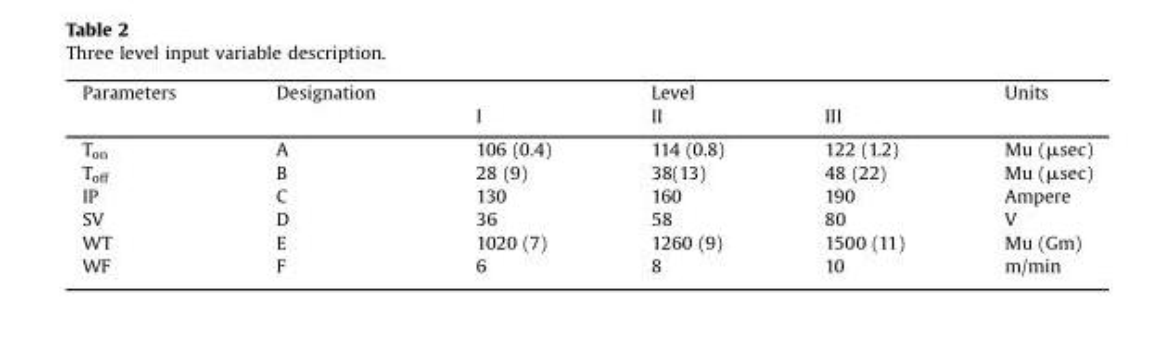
<table><thead><tr><td rowspan="2">Parameters</td><td rowspan="2">Designation</td><td rowspan="2">I</td><td rowspan="2">Level II</td><td rowspan="2">III</td><td rowspan="2">Units</td></tr><tr></tr></thead><tbody><tr><td>T<sub>on</sub></td><td>A</td><td>106 (0.4)</td><td>114 (0.8)</td><td>122 (1.2)</td><td>Mu (μsec)</td></tr><tr><td>T<sub>off</sub></td><td>B</td><td>28 (9)</td><td>38(13)</td><td>48 (22)</td><td>Mu (μsec)</td></tr><tr><td>IP</td><td>C</td><td>130</td><td>160</td><td>190</td><td>Ampere</td></tr><tr><td>SV</td><td>D</td><td>36</td><td>58</td><td>80</td><td>V</td></tr><tr><td>WT</td><td>E</td><td>1020 (7)</td><td>1260 (9)</td><td>1500 (11)</td><td>Mu (Gm)</td></tr><tr><td>WF</td><td>F</td><td>6</td><td>8</td><td>10</td><td>m/min</td></tr></tbody></table>